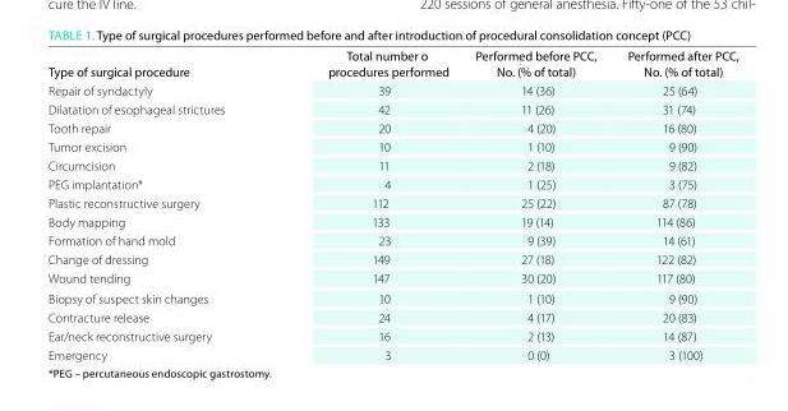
<table><thead><tr><td>type of surgical procedure</td><td>total number o procedures performed</td><td>Performed before PCC, No. (% of total)</td><td>Performed after PCC, No. (% of total)</td></tr></thead><tbody><tr><td>Repair of syndactyly</td><td>39</td><td>14 (36)</td><td>25 (64)</td></tr><tr><td>Dilatation of esophageal strictures</td><td>42</td><td>11 (26)</td><td>31 (74)</td></tr><tr><td>Tooth repair</td><td>20</td><td>4 (20)</td><td>16 (80)</td></tr><tr><td>Tumor excision</td><td>10</td><td>1 (10)</td><td>9 (90)</td></tr><tr><td>Circumcision</td><td>11</td><td>2 (18)</td><td>9 (82)</td></tr><tr><td>PEG implantation*</td><td>4</td><td>1 (25)</td><td>3 (75)</td></tr><tr><td>Plastic reconstructive surgery</td><td>112</td><td>25 (22)</td><td>87 (78)</td></tr><tr><td>Body mapping</td><td>133</td><td>19 (14)</td><td>114 (86)</td></tr><tr><td>Formation of hand mold</td><td>23</td><td>9 (39)</td><td>14 (61)</td></tr><tr><td>Change of dressing</td><td>149</td><td>27 (18)</td><td>122 (82)</td></tr><tr><td>Wound tending</td><td>147</td><td>30 (20)</td><td>117 (80)</td></tr><tr><td>Biopsy of suspect skin changes</td><td>10</td><td>1 (10)</td><td>9 (90)</td></tr><tr><td>Contracture release</td><td>24</td><td>4 (17)</td><td>20 (83)</td></tr><tr><td>Ear/neck reconstructive surgery</td><td>16</td><td>2 (13)</td><td>14 (87)</td></tr><tr><td>Emergency</td><td>3</td><td>0 (0)</td><td>3 (100)</td></tr></tbody></table>